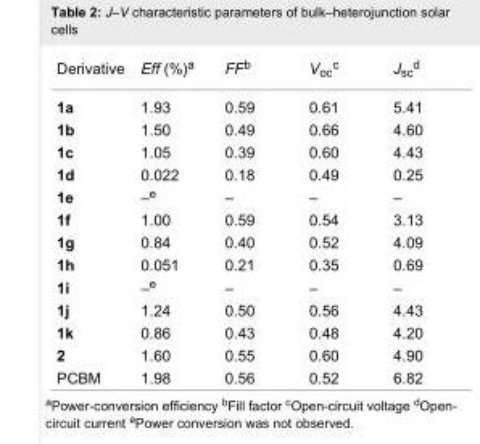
<table><tbody><tr><td>Derivative</td><td>Eff (%)<sup>a</sup></td><td>FF<sup>b</sup></td><td>V<sub>oc</sub><sup>c</sup></td><td>J<sub>sc</sub><sup>d</sup></td></tr><tr><td>1a</td><td>1.93</td><td>0.59</td><td>0.61</td><td>5.41</td></tr><tr><td>1b</td><td>1.50</td><td>0.49</td><td>0.66</td><td>4.60</td></tr><tr><td>1c</td><td>1.05</td><td>0.39</td><td>0.60</td><td>4.43</td></tr><tr><td>1d</td><td>0.022</td><td>0.18</td><td>0.49</td><td>0.25</td></tr><tr><td>1e</td><td>–<sup>e</sup></td><td>–</td><td>–</td><td>–</td></tr><tr><td>1f</td><td>1.00</td><td>0.59</td><td>0.54</td><td>3.13</td></tr><tr><td>1g</td><td>0.84</td><td>0.40</td><td>0.52</td><td>4.09</td></tr><tr><td>1h</td><td>0.051</td><td>0.21</td><td>0.35</td><td>0.69</td></tr><tr><td>1i</td><td>–<sup>e</sup></td><td>–</td><td>–</td><td>–</td></tr><tr><td>1j</td><td>1.24</td><td>0.50</td><td>0.56</td><td>4.43</td></tr><tr><td>1k</td><td>0.86</td><td>0.43</td><td>0.48</td><td>4.20</td></tr><tr><td>2</td><td>1.60</td><td>0.55</td><td>0.60</td><td>4.90</td></tr><tr><td>PCBM</td><td>1.98</td><td>0.56</td><td>0.52</td><td>6.82</td></tr></tbody></table>